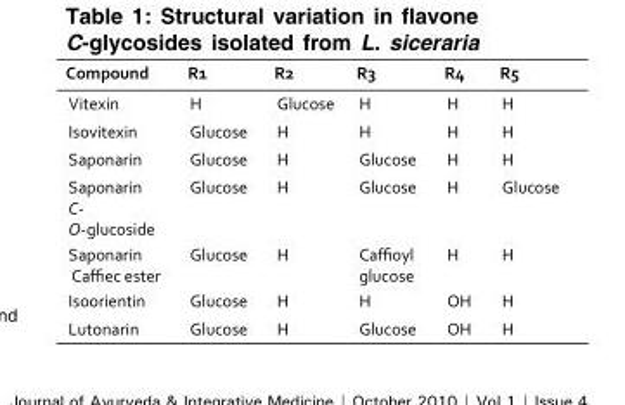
<table><thead><tr><td>Compound</td><td>R1</td><td>R2</td><td>R3</td><td>R4</td><td>R5</td></tr></thead><tbody><tr><td>Vitexin</td><td>H</td><td>Glucose</td><td>H</td><td>H</td><td>H</td></tr><tr><td>Isovitexin</td><td>Glucose</td><td>H</td><td>H</td><td>H</td><td>H</td></tr><tr><td>Saponarin</td><td>Glucose</td><td>H</td><td>Glucose</td><td>H</td><td>H</td></tr><tr><td>Saponarin C- O-glucoside</td><td>Glucose</td><td>H</td><td>Glucose</td><td>H</td><td>Glucose</td></tr><tr><td>Saponarin Caffiec ester</td><td>Glucose</td><td>H</td><td>Caffioyl glucose</td><td>H</td><td>H</td></tr><tr><td>Isoorientin</td><td>Glucose</td><td>H</td><td>H</td><td>OH</td><td>H</td></tr><tr><td>Lutonarin</td><td>Glucose</td><td>H</td><td>Glucose</td><td>OH</td><td>H</td></tr></tbody></table>